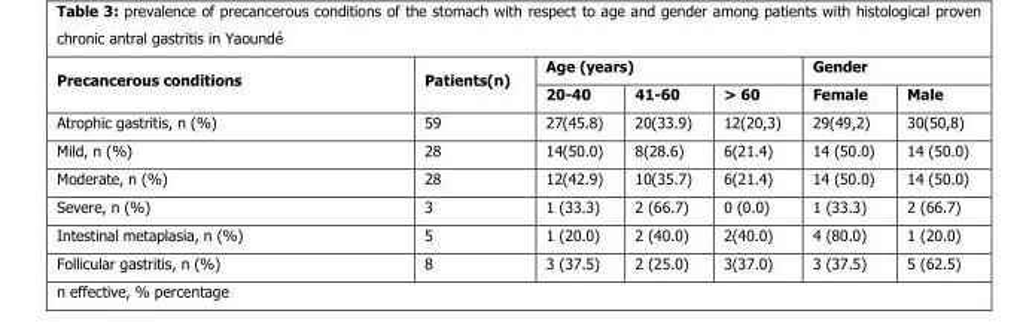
<table><thead><tr><td rowspan="2">Precancerous conditions</td><td rowspan="2">Patients(n)</td><td colspan="3">Age (years)</td><td colspan="2">Gender</td></tr><tr><td>20-40</td><td>41-60</td><td>&gt; 60</td><td>Female</td><td>Male</td></tr></thead><tbody><tr><td>Atrophic gastritis, n (%)</td><td>59</td><td>27(45.8)</td><td>20(33.9)</td><td>12(20,3)</td><td>29(49,2)</td><td>30(50,8)</td></tr><tr><td>Mild, n (%)</td><td>28</td><td>14(50.0)</td><td>8(28.6)</td><td>6(21.4)</td><td>14 (50.0)</td><td>14 (50.0)</td></tr><tr><td>Moderate, n (%)</td><td>28</td><td>12(42.9)</td><td>10(35.7)</td><td>6(21.4)</td><td>14 (50.0)</td><td>14 (50.0)</td></tr><tr><td>Severe, n (%)</td><td>3</td><td>1 (33.3)</td><td>2 (66.7)</td><td>0 (0.0)</td><td>1 (33.3)</td><td>2 (66.7)</td></tr><tr><td>Intestinal metaplasia, n (%)</td><td>5</td><td>1 (20.0)</td><td>2 (40.0)</td><td>2(40.0)</td><td>4 (80.0)</td><td>1 (20.0)</td></tr><tr><td>Follicular gastritis, n (%)</td><td>8</td><td>3 (37.5)</td><td>2 (25.0)</td><td>3(37.0)</td><td>3 (37.5)</td><td>5 (62.5)</td></tr></tbody></table>